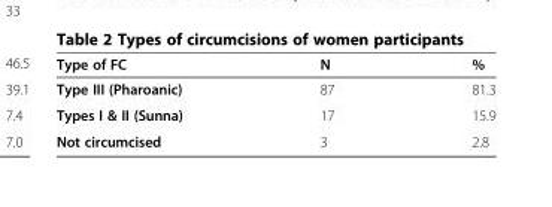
<table><thead><tr><td>Type of FC</td><td>N</td><td>%</td></tr></thead><tbody><tr><td>Type III (Pharoanic)</td><td>87</td><td>81.3</td></tr><tr><td>Types I &amp; II (Sunna)</td><td>17</td><td>15.9</td></tr><tr><td>Not circumcised</td><td>3</td><td>2.8</td></tr></tbody></table>